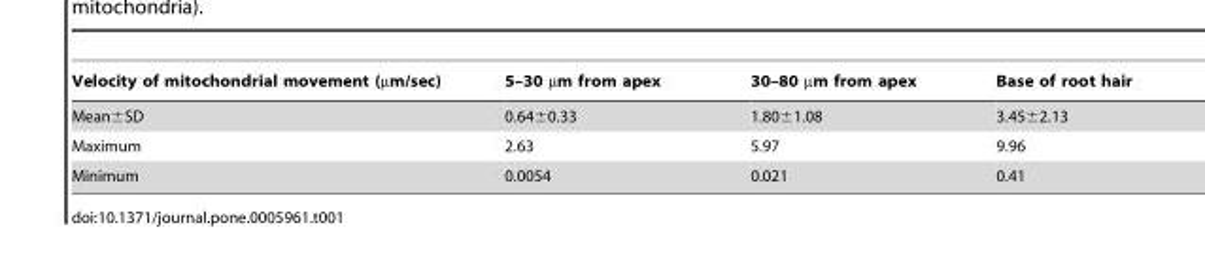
<table><thead><tr><td>Velocity of mitochondrial movement (µm/sec)</td><td>5–30 µm from apex</td><td>30–80 µm from apex</td><td>Base of root hair</td></tr></thead><tbody><tr><td>Mean±SD</td><td>0.64±0.33</td><td>1.80±1.08</td><td>3.45±2.13</td></tr><tr><td>Maximum</td><td>2.63</td><td>5.97</td><td>9.96</td></tr><tr><td>Minimum</td><td>0.0054</td><td>0.021</td><td>0.41</td></tr></tbody></table>